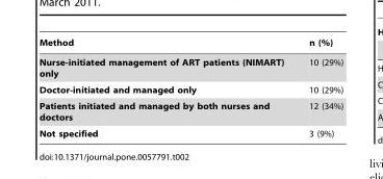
<table><thead><tr><td>Method</td><td>n (%)</td></tr></thead><tbody><tr><td>Nurse-initiated management of ART patients (NIMART) only</td><td>10 (29%)</td></tr><tr><td>Doctor-initiated and managed only</td><td>10 (29%)</td></tr><tr><td>Patients initiated and managed by both nurses and doctors</td><td>12 (34%)</td></tr><tr><td>Not specified</td><td>3 (9%)</td></tr></tbody></table>